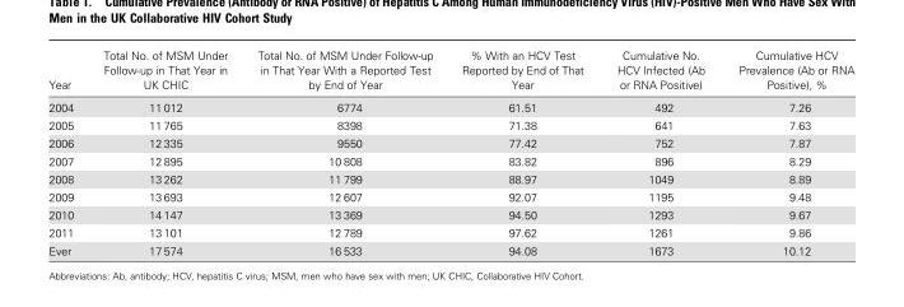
<table><thead><tr><td>Year</td><td>Total No. of MSM Under Follow-up in That Year in UK CHIC</td><td>Total No. of MSM Under Follow-up in That Year With a Reported Test by End of Year</td><td>% With an HCV Test Reported by End of That Year</td><td>Cumulative No. HCV Infected (Ab or RNA Positive)</td><td>Cumulative HCV Prevalence (Ab or RNA Positive), %</td></tr></thead><tbody><tr><td>2004</td><td>11 012</td><td>6774</td><td>61.51</td><td>492</td><td>7.26</td></tr><tr><td>2005</td><td>11 765</td><td>8398</td><td>71.38</td><td>641</td><td>7.63</td></tr><tr><td>2006</td><td>12 335</td><td>9550</td><td>77.42</td><td>752</td><td>7.87</td></tr><tr><td>2007</td><td>12 895</td><td>10 808</td><td>83.82</td><td>896</td><td>8.29</td></tr><tr><td>2008</td><td>13 262</td><td>11 799</td><td>88.97</td><td>1049</td><td>8.89</td></tr><tr><td>2009</td><td>13 693</td><td>12 607</td><td>92.07</td><td>1195</td><td>9.48</td></tr><tr><td>2010</td><td>14 147</td><td>13 369</td><td>94.50</td><td>1293</td><td>9.67</td></tr><tr><td>2011</td><td>13 101</td><td>12 789</td><td>97.62</td><td>1261</td><td>9.86</td></tr><tr><td>Ever</td><td>17 574</td><td>16 533</td><td>94.08</td><td>1673</td><td>10.12</td></tr></tbody></table>